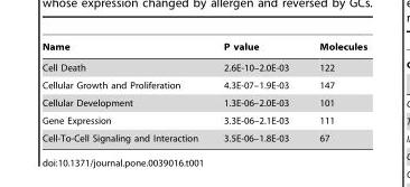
<table><thead><tr><td>Name</td><td>P value</td><td>Molecules</td></tr></thead><tbody><tr><td>Cell Death</td><td>2.6E-10–2.0E-03</td><td>122</td></tr><tr><td>Cellular Growth and Proliferation</td><td>4.3E-07–1.9E-03</td><td>147</td></tr><tr><td>Cellular Development</td><td>1.3E-06–2.0E-03</td><td>101</td></tr><tr><td>Gene Expression</td><td>3.3E-06–2.1E-03</td><td>111</td></tr><tr><td>Cell-To-Cell Signaling and Interaction</td><td>3.5E-06–1.8E-03</td><td>67</td></tr></tbody></table>